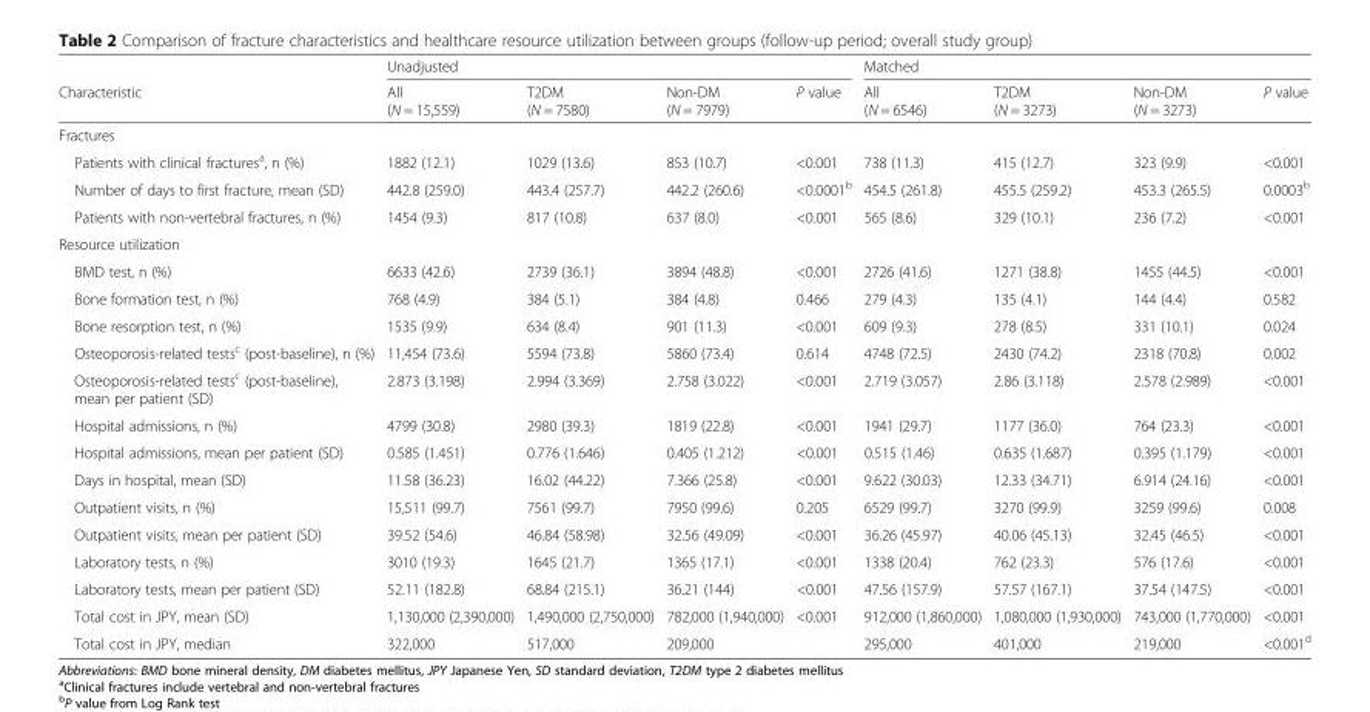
<table><thead><tr><td rowspan="2">Characteristic</td><td colspan="4">Unadjusted</td><td colspan="4">Matched</td></tr><tr><td>All (N = 15,559)</td><td>T2DM (N = 7580)</td><td>Non-DM (N = 7979)</td><td>P value</td><td>All (N = 6546)</td><td>T2DM (N = 3273)</td><td>Non-DM (N = 3273)</td><td>P value</td></tr></thead><tbody><tr><td colspan="9">Fractures</td></tr><tr><td>Patients with clinical fractures<sup>a</sup>, n (%)</td><td>1882 (12.1)</td><td>1029 (13.6)</td><td>853 (10.7)</td><td>&lt;0.001</td><td>738 (11.3)</td><td>415 (12.7)</td><td>323 (9.9)</td><td>&lt;0.001</td></tr><tr><td>Number of days to first fracture, mean (SD)</td><td>442.8 (259.0)</td><td>443.4 (257.7)</td><td>442.2 (260.6)</td><td>&lt;0.0001<sup>b</sup></td><td>454.5 (261.8)</td><td>455.5 (259.2)</td><td>453.3 (265.5)</td><td>0.0003<sup>b</sup></td></tr><tr><td>Patients with non-vertebral fractures, n (%)</td><td>1454 (9.3)</td><td>817 (10.8)</td><td>637 (8.0)</td><td>&lt;0.001</td><td>565 (8.6)</td><td>329 (10.1)</td><td>236 (7.2)</td><td>&lt;0.001</td></tr><tr><td colspan="9">Resource utilization</td></tr><tr><td>BMD test, n (%)</td><td>6633 (42.6)</td><td>2739 (36.1)</td><td>3894 (48.8)</td><td>&lt;0.001</td><td>2726 (41.6)</td><td>1271 (38.8)</td><td>1455 (44.5)</td><td>&lt;0.001</td></tr><tr><td>Bone formation test, n (%)</td><td>768 (4.9)</td><td>384 (5.1)</td><td>384 (4.8)</td><td>0.466</td><td>279 (4.3)</td><td>135 (4.1)</td><td>144 (4.4)</td><td>0.582</td></tr><tr><td>Bone resorption test, n (%)</td><td>1535 (9.9)</td><td>634 (8.4)</td><td>901 (11.3)</td><td>&lt;0.001</td><td>609 (9.3)</td><td>278 (8.5)</td><td>331 (10.1)</td><td>0.024</td></tr><tr><td>Osteoporosis-related tests<sup>c</sup> (post-baseline), n (%)</td><td>11,454 (73.6)</td><td>5594 (73.8)</td><td>5860 (73.4)</td><td>0.614</td><td>4748 (72.5)</td><td>2430 (74.2)</td><td>2318 (70.8)</td><td>0.002</td></tr><tr><td>Osteoporosis-related tests<sup>c</sup> (post-baseline), mean per patient (SD)</td><td>2.873 (3.198)</td><td>2.994 (3.369)</td><td>2.758 (3.022)</td><td>&lt;0.001</td><td>2.719 (3.057)</td><td>2.86 (3.118)</td><td>2.578 (2.989)</td><td>&lt;0.001</td></tr><tr><td>Hospital admissions, n (%)</td><td>4799 (30.8)</td><td>2980 (39.3)</td><td>1819 (22.8)</td><td>&lt;0.001</td><td>1941 (29.7)</td><td>1177 (36.0)</td><td>764 (23.3)</td><td>&lt;0.001</td></tr><tr><td>Hospital admissions, mean per patient (SD)</td><td>0.585 (1.451)</td><td>0.776 (1.646)</td><td>0.405 (1.212)</td><td>&lt;0.001</td><td>0.515 (1.46)</td><td>0.635 (1.687)</td><td>0.395 (1.179)</td><td>&lt;0.001</td></tr><tr><td>Days in hospital, mean (SD)</td><td>11.58 (36.23)</td><td>16.02 (44.22)</td><td>7.366 (25.8)</td><td>&lt;0.001</td><td>9.622 (30.03)</td><td>12.33 (34.71)</td><td>6.914 (24.16)</td><td>&lt;0.001</td></tr><tr><td>Outpatient visits, n (%)</td><td>15,511 (99.7)</td><td>7561 (99.7)</td><td>7950 (99.6)</td><td>0.205</td><td>6529 (99.7)</td><td>3270 (99.9)</td><td>3259 (99.6)</td><td>0.008</td></tr><tr><td>Outpatient visits, mean per patient (SD)</td><td>39.52 (54.6)</td><td>46.84 (58.98)</td><td>32.56 (49.09)</td><td>&lt;0.001</td><td>36.26 (45.97)</td><td>40.06 (45.13)</td><td>32.45 (46.5)</td><td>&lt;0.001</td></tr><tr><td>Laboratory tests, n (%)</td><td>3010 (19.3)</td><td>1645 (21.7)</td><td>1365 (17.1)</td><td>&lt;0.001</td><td>1338 (20.4)</td><td>762 (23.3)</td><td>576 (17.6)</td><td>&lt;0.001</td></tr><tr><td>Laboratory tests, mean per patient (SD)</td><td>52.11 (182.8)</td><td>68.84 (215.1)</td><td>36.21 (144)</td><td>&lt;0.001</td><td>47.56 (157.9)</td><td>57.57 (167.1)</td><td>37.54 (147.5)</td><td>&lt;0.001</td></tr><tr><td>Total cost in JPY, mean (SD)</td><td>1,130,000 (2,390,000)</td><td>1,490,000 (2,750,000)</td><td>782,000 (1,940,000)</td><td>&lt;0.001</td><td>912,000 (1,860,000)</td><td>1,080,000 (1,930,000)</td><td>743,000 (1,770,000)</td><td>&lt;0.001</td></tr><tr><td>Total cost in JPY, median</td><td>322,000</td><td>517,000</td><td>209,000</td><td></td><td>295,000</td><td>401,000</td><td>219,000</td><td>&lt;0.001<sup>d</sup></td></tr></tbody></table>